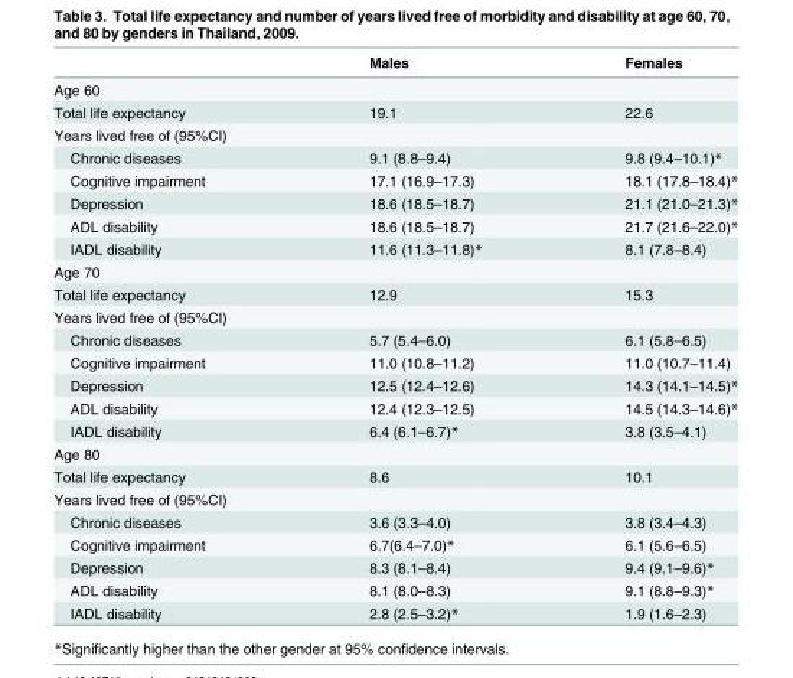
<table><thead><tr><td></td><td>Males</td><td>Females</td></tr></thead><tbody><tr><td colspan="3">Age 60</td></tr><tr><td>Total life expectancy</td><td>19.1</td><td>22.6</td></tr><tr><td colspan="3">Years lived free of (95%CI)</td></tr><tr><td>Chronic diseases</td><td>9.1 (8.8–9.4)</td><td>9.8 (9.4–10.1)*</td></tr><tr><td>Cognitive impairment</td><td>17.1 (16.9–17.3)</td><td>18.1 (17.8–18.4)*</td></tr><tr><td>Depression</td><td>18.6 (18.5–18.7)</td><td>21.1 (21.0–21.3)*</td></tr><tr><td>ADL disability</td><td>18.6 (18.5–18.7)</td><td>21.7 (21.6–22.0)*</td></tr><tr><td>IADL disability</td><td>11.6 (11.3–11.8)*</td><td>8.1 (7.8–8.4)</td></tr><tr><td colspan="3">Age 70</td></tr><tr><td>Total life expectancy</td><td>12.9</td><td>15.3</td></tr><tr><td colspan="3">Years lived free of (95%CI)</td></tr><tr><td>Chronic diseases</td><td>5.7 (5.4–6.0)</td><td>6.1 (5.8–6.5)</td></tr><tr><td>Cognitive impairment</td><td>11.0 (10.8–11.2)</td><td>11.0 (10.7–11.4)</td></tr><tr><td>Depression</td><td>12.5 (12.4–12.6)</td><td>14.3 (14.1–14.5)*</td></tr><tr><td>ADL disability</td><td>12.4 (12.3–12.5)</td><td>14.5 (14.3–14.6)*</td></tr><tr><td>IADL disability</td><td>6.4 (6.1–6.7)*</td><td>3.8 (3.5–4.1)</td></tr><tr><td colspan="3">Age 80</td></tr><tr><td>Total life expectancy</td><td>8.6</td><td>10.1</td></tr><tr><td colspan="3">Years lived free of (95%CI)</td></tr><tr><td>Chronic diseases</td><td>3.6 (3.3–4.0)</td><td>3.8 (3.4–4.3)</td></tr><tr><td>Cognitive impairment</td><td>6.7(6.4–7.0)*</td><td>6.1 (5.6–6.5)</td></tr><tr><td>Depression</td><td>8.3 (8.1–8.4)</td><td>9.4 (9.1–9.6)*</td></tr><tr><td>ADL disability</td><td>8.1 (8.0–8.3)</td><td>9.1 (8.8–9.3)*</td></tr><tr><td>IADL disability</td><td>2.8 (2.5–3.2)*</td><td>1.9 (1.6–2.3)</td></tr></tbody></table>